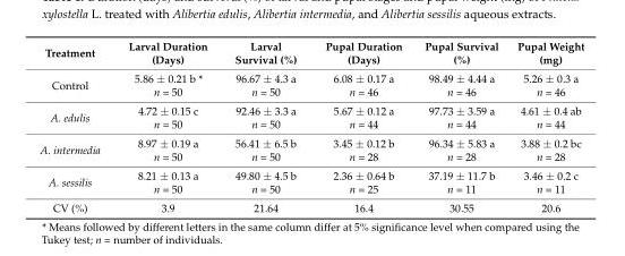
<table><thead><tr><td>Treatment</td><td>Larval Duration (Days)</td><td>Larval Survival (%)</td><td>Pupal Duration (Days)</td><td>Pupal Survival (%)</td><td>Pupal Weight (mg)</td></tr></thead><tbody><tr><td>Control</td><td>5.86 ± 0.21 b * n = 50</td><td>96.67 ± 4.3 a n = 50</td><td>6.08 ± 0.17 a n = 46</td><td>98.49 ± 4.44 a n = 46</td><td>5.26 ± 0.3 a n = 46</td></tr><tr><td>A. edulis</td><td>4.72 ± 0.15 c n = 50</td><td>92.46 ± 3.3 a n = 50</td><td>5.67 ± 0.12 a n = 44</td><td>97.73 ± 3.59 a n = 44</td><td>4.61 ± 0.4 ab n = 44</td></tr><tr><td>A. intermedia</td><td>8.97 ± 0.19 a n = 50</td><td>56.41 ± 6.5 b n = 50</td><td>3.45 ± 0.12 b n = 28</td><td>96.34 ± 5.83 a n = 28</td><td>3.88 ± 0.2 bc n = 28</td></tr><tr><td>A. sessilis</td><td>8.21 ± 0.13 a n = 50</td><td>49.80 ± 4.5 b n = 50</td><td>2.36 ± 0.64 b n = 25</td><td>37.19 ± 11.7 b n = 11</td><td>3.46 ± 0.2 c n = 11</td></tr><tr><td>CV (%)</td><td>3.9</td><td>21.64</td><td>16.4</td><td>30.55</td><td>20.6</td></tr></tbody></table>